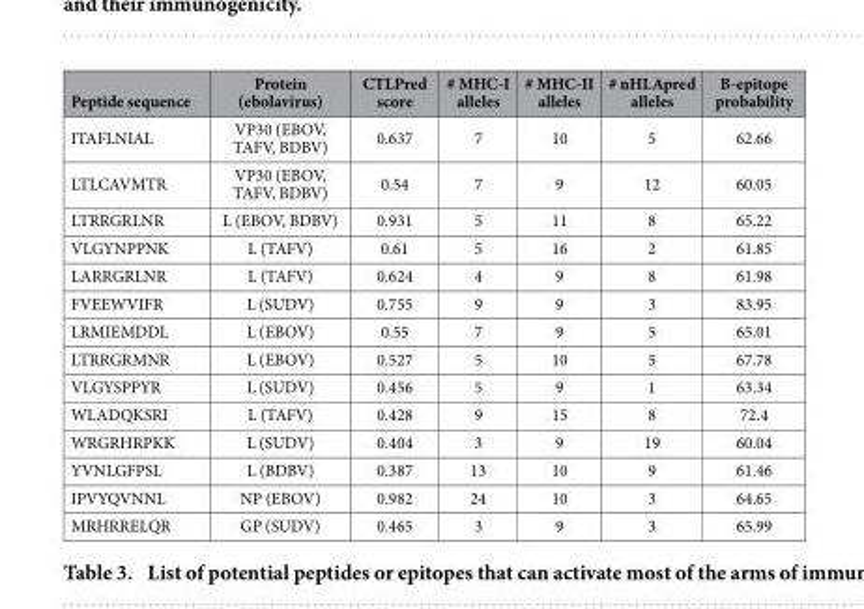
<table><thead><tr><td>Peptide sequence</td><td>Protein (ebolavirus)</td><td>CTLPred score</td><td># MHC-I alleles</td><td># MHC-II alleles</td><td># nHLApred alleles</td><td>B-epitope probability</td></tr></thead><tbody><tr><td>ITAFLNIAL</td><td>VP30 (EBOV, TAFV, BDBV)</td><td>0.637</td><td>7</td><td>10</td><td>5</td><td>62.66</td></tr><tr><td>LTLCAVMTR</td><td>VP30 (EBOV, TAFV, BDBV)</td><td>0.54</td><td>7</td><td>9</td><td>12</td><td>60.05</td></tr><tr><td>LTRRGRLNR</td><td>L (EBOV, BDBV)</td><td>0.931</td><td>5</td><td>11</td><td>8</td><td>65.22</td></tr><tr><td>VLGYNPPNK</td><td>L (TAFV)</td><td>0.61</td><td>5</td><td>16</td><td>2</td><td>61.85</td></tr><tr><td>LARRGRLNR</td><td>L (TAFV)</td><td>0.624</td><td>4</td><td>9</td><td>8</td><td>61.98</td></tr><tr><td>FVEEWVIFR</td><td>L (SUDV)</td><td>0.755</td><td>9</td><td>9</td><td>3</td><td>83.95</td></tr><tr><td>LRMIEMDDL</td><td>L (EBOV)</td><td>0.55</td><td>7</td><td>9</td><td>5</td><td>65.01</td></tr><tr><td>LTRRGRMNR</td><td>L (EBOV)</td><td>0.527</td><td>5</td><td>10</td><td>5</td><td>67.78</td></tr><tr><td>VLGYSPPYR</td><td>L (SUDV)</td><td>0.456</td><td>5</td><td>9</td><td>1</td><td>63.34</td></tr><tr><td>WLADQKSRI</td><td>L (TAFV)</td><td>0.428</td><td>9</td><td>15</td><td>8</td><td>72.4</td></tr><tr><td>WRGRHRPKK</td><td>L (SUDV)</td><td>0.404</td><td>3</td><td>9</td><td>19</td><td>60.04</td></tr><tr><td>YVNLGFPSL</td><td>L (BDBV)</td><td>0.387</td><td>13</td><td>10</td><td>9</td><td>61.46</td></tr><tr><td>IPVYQVNNL</td><td>NP (EBOV)</td><td>0.982</td><td>24</td><td>10</td><td>3</td><td>64.65</td></tr><tr><td>MRHRRELQR</td><td>GP (SUDV)</td><td>0.465</td><td>3</td><td>9</td><td>3</td><td>65.99</td></tr></tbody></table>